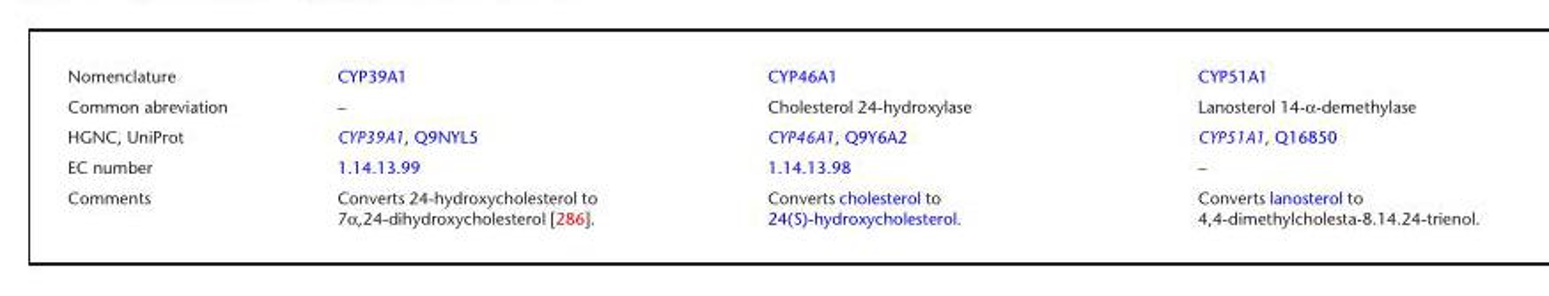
<table><tbody><tr><td>Nomenclature</td><td>CYP39A1</td><td>CYP46A1</td><td>CYP51A1</td></tr><tr><td>Common abreviation</td><td>–</td><td>Cholesterol 24-hydroxylase</td><td>Lanosterol 14-α-demethylase</td></tr><tr><td>HGNC, UniProt</td><td>CYP39A1, Q9NYL5</td><td>CYP46A1, Q9Y6A2</td><td>CYP51A1, Q16850</td></tr><tr><td>EC number</td><td>1.14.13.99</td><td>1.14.13.98</td><td>–</td></tr><tr><td>Comments</td><td>Converts 24-hydroxycholesterol to 7α,24-dihydroxycholesterol [286].</td><td>Converts cholesterol to 24(S)-hydroxycholesterol.</td><td>Converts lanosterol to 4,4-dimethylcholesta-8.14.24-trienol.</td></tr></tbody></table>